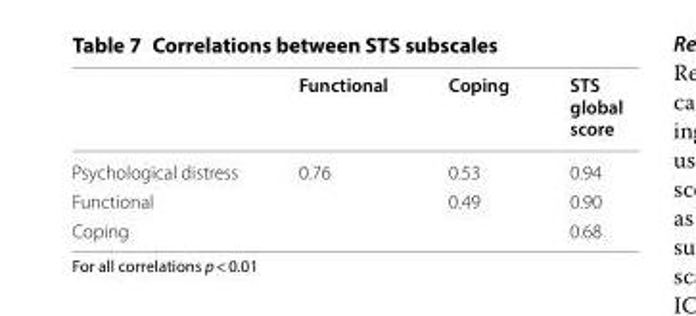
<table><thead><tr><td></td><td>Functional</td><td>Coping</td><td>STS global score</td></tr></thead><tbody><tr><td>Psychological distress</td><td>0.76</td><td>0.53</td><td>0.94</td></tr><tr><td>Functional</td><td></td><td>0.49</td><td>0.90</td></tr><tr><td>Coping</td><td></td><td></td><td>0.68</td></tr></tbody></table>